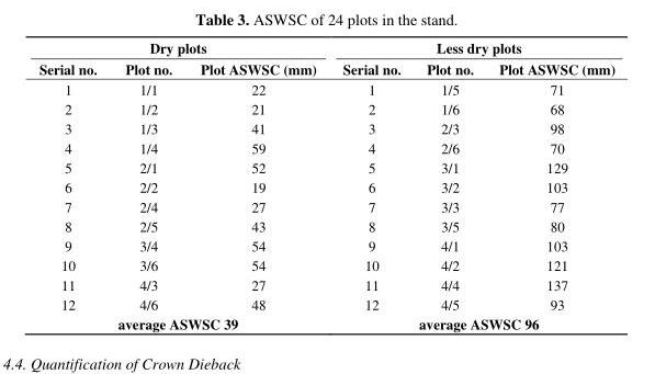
<table><thead><tr><td colspan="3">Dry plots</td><td colspan="3">Less dry plots</td></tr><tr><td>Serial no.</td><td>Plot no.</td><td>Plot ASWSC (mm)</td><td>Serial no.</td><td>Plot no.</td><td>Plot ASWSC (mm)</td></tr></thead><tbody><tr><td>1</td><td>1/1</td><td>22</td><td>1</td><td>1/5</td><td>71</td></tr><tr><td>2</td><td>1/2</td><td>21</td><td>2</td><td>1/6</td><td>68</td></tr><tr><td>3</td><td>1/3</td><td>41</td><td>3</td><td>2/3</td><td>98</td></tr><tr><td>4</td><td>1/4</td><td>59</td><td>4</td><td>2/6</td><td>70</td></tr><tr><td>5</td><td>2/1</td><td>52</td><td>5</td><td>3/1</td><td>129</td></tr><tr><td>6</td><td>2/2</td><td>19</td><td>6</td><td>3/2</td><td>103</td></tr><tr><td>7</td><td>2/4</td><td>27</td><td>7</td><td>3/3</td><td>77</td></tr><tr><td>8</td><td>2/5</td><td>43</td><td>8</td><td>3/5</td><td>80</td></tr><tr><td>9</td><td>3/4</td><td>54</td><td>9</td><td>4/1</td><td>103</td></tr><tr><td>10</td><td>3/6</td><td>54</td><td>10</td><td>4/2</td><td>121</td></tr><tr><td>11</td><td>4/3</td><td>27</td><td>11</td><td>4/4</td><td>137</td></tr><tr><td>12</td><td>4/6</td><td>48</td><td>12</td><td>4/5</td><td>93</td></tr><tr><td colspan="3">average ASWSC 39</td><td colspan="3">average ASWSC 96</td></tr></tbody></table>